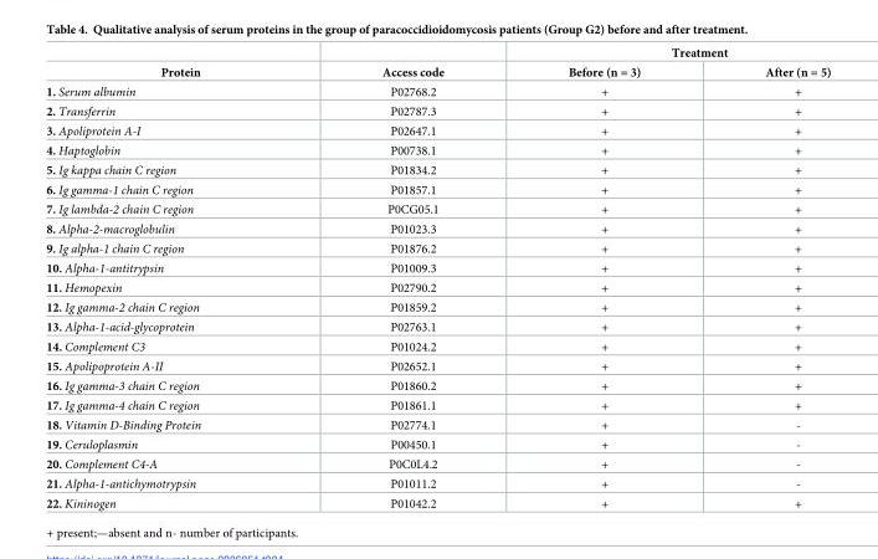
<table><thead><tr><td rowspan="2">Protein</td><td rowspan="2">Access code</td><td colspan="2">Treatment</td></tr><tr><td>Before (n = 3)</td><td>After (n = 5)</td></tr></thead><tbody><tr><td>1. Serum albumin</td><td>P02768.2</td><td>+</td><td>+</td></tr><tr><td>2. Transferrin</td><td>P02787.3</td><td>+</td><td>+</td></tr><tr><td>3. Apoliprotein A-I</td><td>P02647.1</td><td>+</td><td>+</td></tr><tr><td>4. Haptoglobin</td><td>P00738.1</td><td>+</td><td>+</td></tr><tr><td>5. Ig kappa chain C region</td><td>P01834.2</td><td>+</td><td>+</td></tr><tr><td>6. Ig gamma-1 chain C region</td><td>P01857.1</td><td>+</td><td>+</td></tr><tr><td>7. Ig lambda-2 chain C region</td><td>P0CG05.1</td><td>+</td><td>+</td></tr><tr><td>8. Alpha-2-macroglobulin</td><td>P01023.3</td><td>+</td><td>+</td></tr><tr><td>9. Ig alpha-1 chain C region</td><td>P01876.2</td><td>+</td><td>+</td></tr><tr><td>10. Alpha-1-antitrypsin</td><td>P01009.3</td><td>+</td><td>+</td></tr><tr><td>11. Hemopexin</td><td>P02790.2</td><td>+</td><td>+</td></tr><tr><td>12. Ig gamma-2 chain C region</td><td>P01859.2</td><td>+</td><td>+</td></tr><tr><td>13. Alpha-1-acid-glycoprotein</td><td>P02763.1</td><td>+</td><td>+</td></tr><tr><td>14. Complement C3</td><td>P01024.2</td><td>+</td><td>+</td></tr><tr><td>15. Apolipoprotein A-II</td><td>P02652.1</td><td>+</td><td>+</td></tr><tr><td>16. Ig gamma-3 chain C region</td><td>P01860.2</td><td>+</td><td>+</td></tr><tr><td>17. Ig gamma-4 chain C region</td><td>P01861.1</td><td>+</td><td>+</td></tr><tr><td>18. Vitamin D-Binding Protein</td><td>P02774.1</td><td>+</td><td>-</td></tr><tr><td>19. Ceruloplasmin</td><td>P00450.1</td><td>+</td><td>-</td></tr><tr><td>20. Complement C4-A</td><td>P0C0L4.2</td><td>+</td><td>-</td></tr><tr><td>21. Alpha-1-antichymotrypsin</td><td>P01011.2</td><td>+</td><td>-</td></tr><tr><td>22. Kininogen</td><td>P01042.2</td><td>+</td><td>+</td></tr></tbody></table>